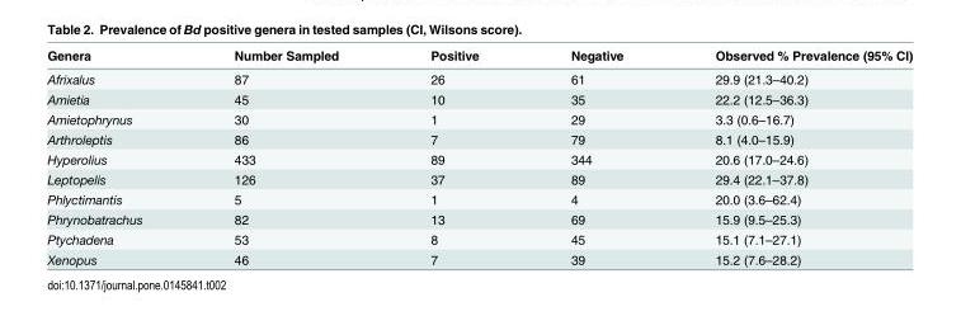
<table><thead><tr><td>Genera</td><td>Number Sampled</td><td>Positive</td><td>Negative</td><td>Observed % Prevalence (95% CI)</td></tr></thead><tbody><tr><td>Afrixalus</td><td>87</td><td>26</td><td>61</td><td>29.9 (21.3–40.2)</td></tr><tr><td>Amietia</td><td>45</td><td>10</td><td>35</td><td>22.2 (12.5–36.3)</td></tr><tr><td>Amietophrynus</td><td>30</td><td>1</td><td>29</td><td>3.3 (0.6–16.7)</td></tr><tr><td>Arthroleptis</td><td>86</td><td>7</td><td>79</td><td>8.1 (4.0–15.9)</td></tr><tr><td>Hyperolius</td><td>433</td><td>89</td><td>344</td><td>20.6 (17.0–24.6)</td></tr><tr><td>Leptopelis</td><td>126</td><td>37</td><td>89</td><td>29.4 (22.1–37.8)</td></tr><tr><td>Phlyctimantis</td><td>5</td><td>1</td><td>4</td><td>20.0 (3.6–62.4)</td></tr><tr><td>Phrynobatrachus</td><td>82</td><td>13</td><td>69</td><td>15.9 (9.5–25.3)</td></tr><tr><td>Ptychadena</td><td>53</td><td>8</td><td>45</td><td>15.1 (7.1–27.1)</td></tr><tr><td>Xenopus</td><td>46</td><td>7</td><td>39</td><td>15.2 (7.6–28.2)</td></tr></tbody></table>